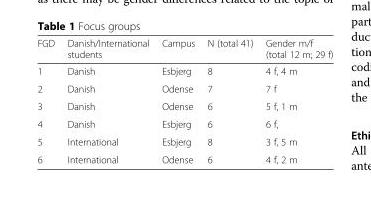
<table><thead><tr><td>FGD</td><td>Danish/International students</td><td>Campus</td><td>N (total 41)</td><td>Gender m/f (total 12 m; 29 f)</td></tr></thead><tbody><tr><td>1</td><td>Danish</td><td>Esbjerg</td><td>8</td><td>4 f, 4 m</td></tr><tr><td>2</td><td>Danish</td><td>Odense</td><td>7</td><td>7 f</td></tr><tr><td>3</td><td>Danish</td><td>Odense</td><td>6</td><td>5 f, 1 m</td></tr><tr><td>4</td><td>Danish</td><td>Esbjerg</td><td>6</td><td>6 f,</td></tr><tr><td>5</td><td>International</td><td>Esbjerg</td><td>8</td><td>3 f, 5 m</td></tr><tr><td>6</td><td>International</td><td>Odense</td><td>6</td><td>4 f, 2 m</td></tr></tbody></table>